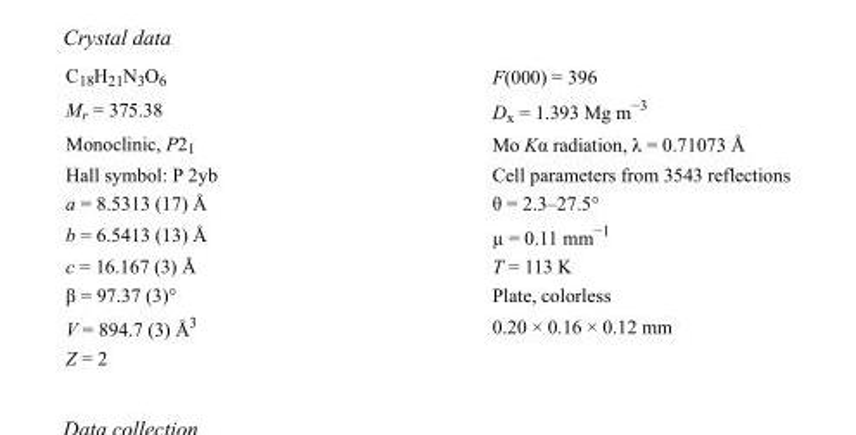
<table><tbody><tr><td>C<sub>18</sub>H<sub>21</sub>N<sub>3</sub>O<sub>6</sub></td><td>F(000) = 396</td></tr><tr><td>M<sub>r</sub> = 375.38</td><td>D<sub>x</sub> = 1.393 Mg m<sup>−3</sup></td></tr><tr><td>Monoclinic, P2<sub>1</sub></td><td>Mo Kα radiation, λ = 0.71073 Å</td></tr><tr><td>Hall symbol: P 2yb</td><td>Cell parameters from 3543 reflections</td></tr><tr><td>a = 8.5313 (17) Å</td><td>θ = 2.3–27.5°</td></tr><tr><td>b = 6.5413 (13) Å</td><td>µ = 0.11 mm<sup>−1</sup></td></tr><tr><td>c = 16.167 (3) Å</td><td>T = 113 K</td></tr><tr><td>β = 97.37 (3)°</td><td>Plate, colorless</td></tr><tr><td>V = 894.7 (3) Å<sup>3</sup></td><td>0.20 × 0.16 × 0.12 mm</td></tr><tr><td>Z = 2</td><td></td></tr></tbody></table>